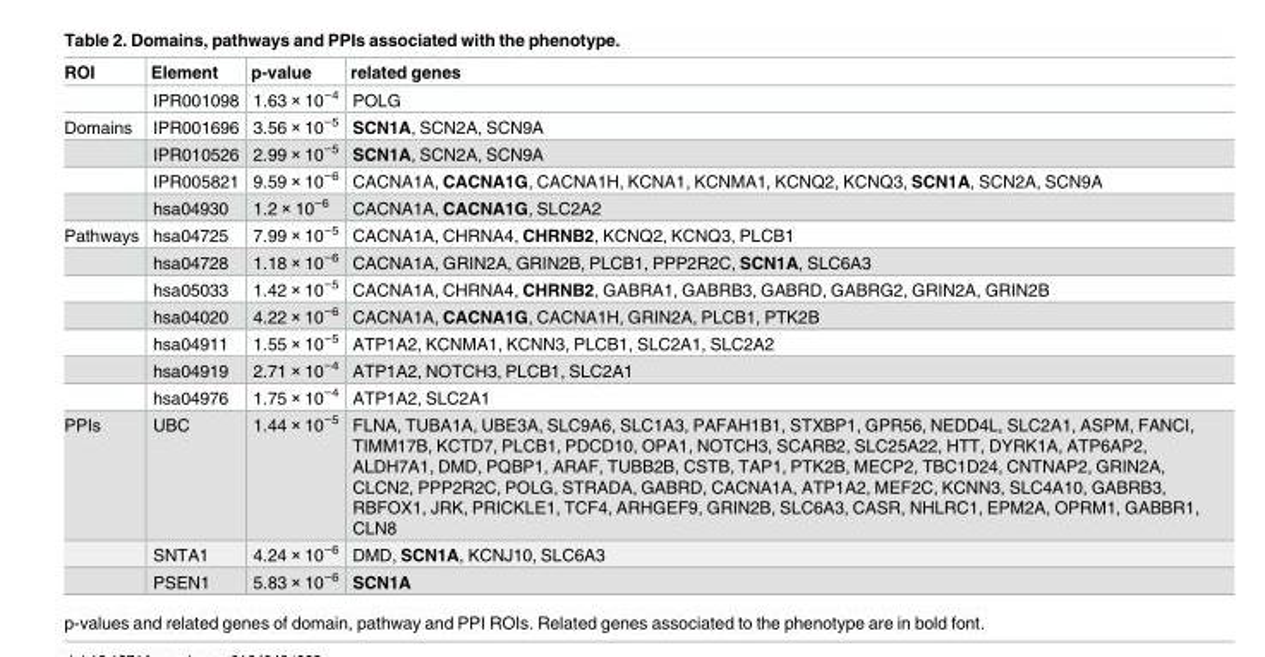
<table><thead><tr><td>ROI</td><td>Element</td><td>p-value</td><td>related genes</td></tr></thead><tbody><tr><td></td><td>IPR001098</td><td>1.63 × 10<sup>−4</sup></td><td>POLG</td></tr><tr><td rowspan="4">Domains</td><td>IPR001696</td><td>3.56 × 10<sup>−5</sup></td><td>SCN1A, SCN2A, SCN9A</td></tr><tr><td>IPR010526</td><td>2.99 × 10<sup>−5</sup></td><td>SCN1A, SCN2A, SCN9A</td></tr><tr><td>IPR005821</td><td>9.59 × 10<sup>−6</sup></td><td>CACNA1A, CACNA1G, CACNA1H, KCNA1, KCNMA1, KCNQ2, KCNQ3, SCN1A, SCN2A, SCN9A</td></tr><tr><td>hsa04930</td><td>1.2 × 10<sup>−6</sup></td><td>CACNA1A, CACNA1G, SLC2A2</td></tr><tr><td rowspan="7">Pathways</td><td>hsa04725</td><td>7.99 × 10<sup>−5</sup></td><td>CACNA1A, CHRNA4, CHRNB2, KCNQ2, KCNQ3, PLCB1</td></tr><tr><td>hsa04728</td><td>1.18 × 10<sup>−6</sup></td><td>CACNA1A, GRIN2A, GRIN2B, PLCB1, PPP2R2C, SCN1A, SLC6A3</td></tr><tr><td>hsa05033</td><td>1.42 × 10<sup>−5</sup></td><td>CACNA1A, CHRNA4, CHRNB2, GABRA1, GABRB3, GABRD, GABRG2, GRIN2A, GRIN2B</td></tr><tr><td>hsa04020</td><td>4.22 × 10<sup>−6</sup></td><td>CACNA1A, CACNA1G, CACNA1H, GRIN2A, PLCB1, PTK2B</td></tr><tr><td>hsa04911</td><td>1.55 × 10<sup>−5</sup></td><td>ATP1A2, KCNMA1, KCNN3, PLCB1, SLC2A1, SLC2A2</td></tr><tr><td>hsa04919</td><td>2.71 × 10<sup>−4</sup></td><td>ATP1A2, NOTCH3, PLCB1, SLC2A1</td></tr><tr><td>hsa04976</td><td>1.75 × 10<sup>−4</sup></td><td>ATP1A2, SLC2A1</td></tr><tr><td rowspan="3">PPIs</td><td>UBC</td><td>1.44 × 10<sup>−5</sup></td><td>FLNA, TUBA1A, UBE3A, SLC9A6, SLC1A3, PAFAH1B1, STXBP1, GPR56, NEDD4L, SLC2A1, ASPM, FANCI, TIMM17B, KCTD7, PLCB1, PDCD10, OPA1, NOTCH3, SCARB2, SLC25A22, HTT, DYRK1A, ATP6AP2, ALDH7A1, DMD, PQBP1, ARAF, TUBB2B, CSTB, TAP1, PTK2B, MECP2, TBC1D24, CNTNAP2, GRIN2A, CLCN2, PPP2R2C, POLG, STRADA, GABRD, CACNA1A, ATP1A2, MEF2C, KCNN3, SLC4A10, GABRB3, RBFOX1, JRK, PRICKLE1, TCF4, ARHGEF9, GRIN2B, SLC6A3, CASR, NHLRC1, EPM2A, OPRM1, GABBR1, CLN8</td></tr><tr><td>SNTA1</td><td>4.24 × 10<sup>−6</sup></td><td>DMD, SCN1A, KCNJ10, SLC6A3</td></tr><tr><td>PSEN1</td><td>5.83 × 10<sup>−6</sup></td><td>SCN1A</td></tr></tbody></table>